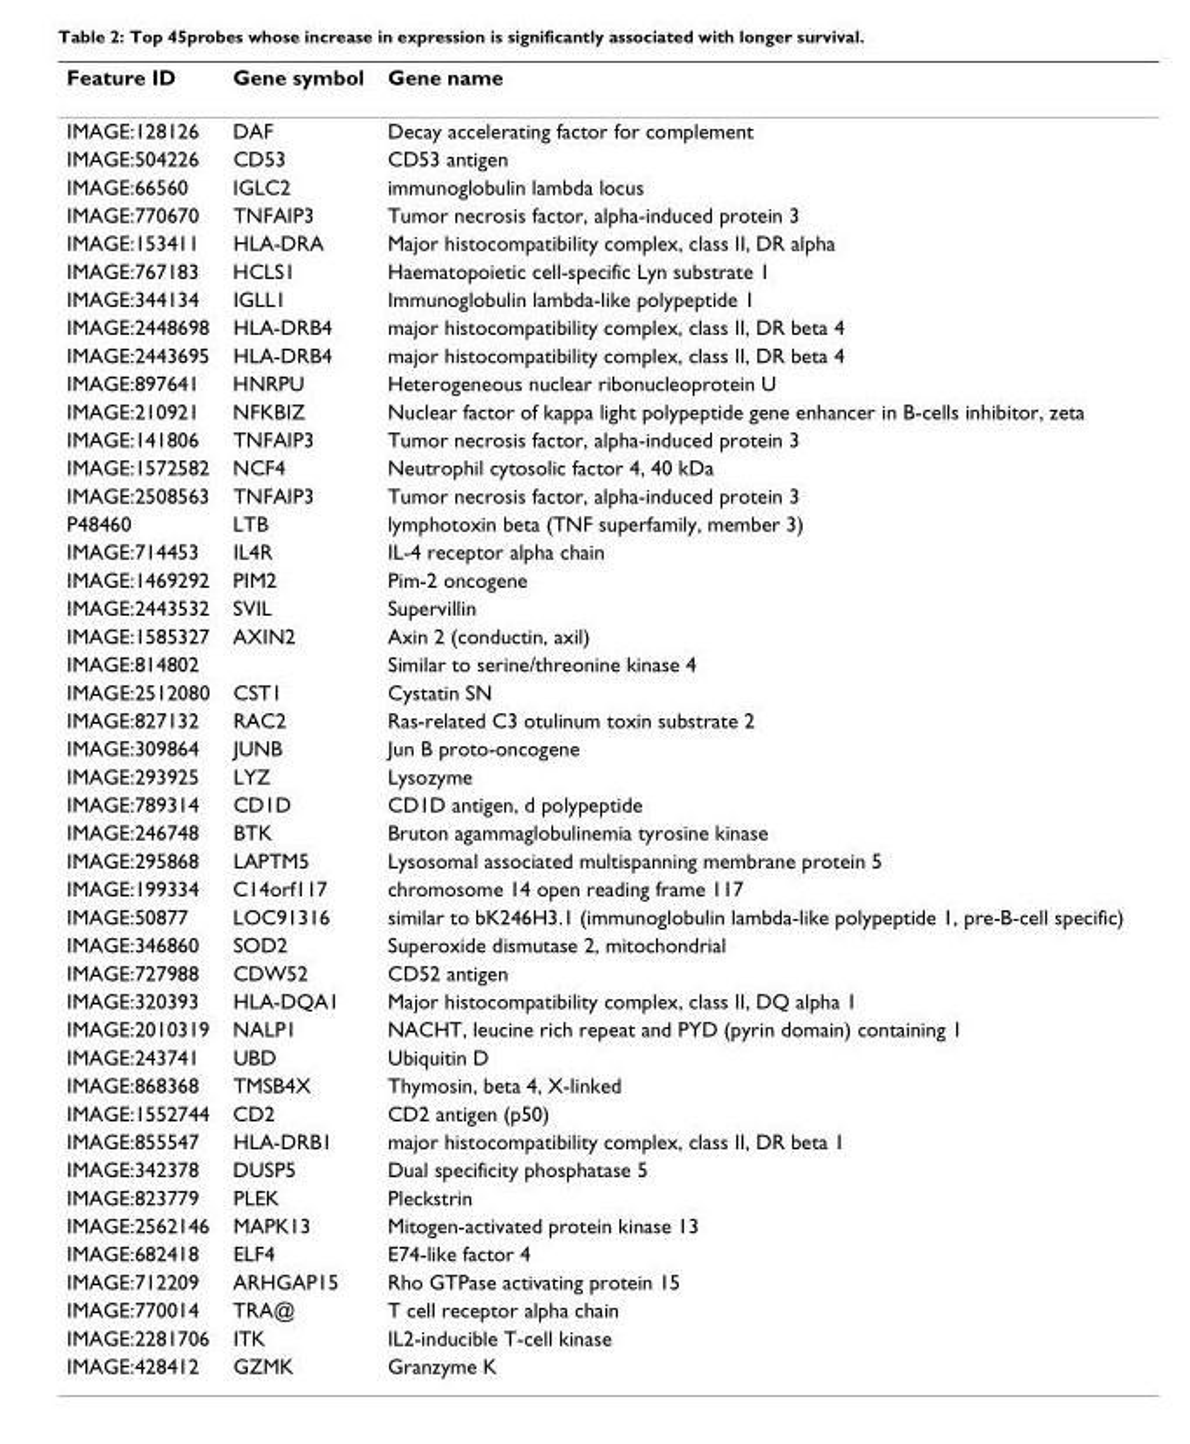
<table><thead><tr><td>Feature ID</td><td>Gene symbol</td><td>Gene name</td></tr></thead><tbody><tr><td>IMAGE:128126</td><td>DAF</td><td>Decay accelerating factor for complement</td></tr><tr><td>IMAGE:504226</td><td>CD53</td><td>CD53 antigen</td></tr><tr><td>IMAGE:66560</td><td>IGLC2</td><td>immunoglobulin lambda locus</td></tr><tr><td>IMAGE:770670</td><td>TNFAIP3</td><td>Tumor necrosis factor, alpha-induced protein 3</td></tr><tr><td>IMAGE:153411</td><td>HLA-DRA</td><td>Major histocompatibility complex, class II, DR alpha</td></tr><tr><td>IMAGE:767183</td><td>HCLS1</td><td>Haematopoietic cell-specific Lyn substrate 1</td></tr><tr><td>IMAGE:344134</td><td>IGLL1</td><td>Immunoglobulin lambda-like polypeptide 1</td></tr><tr><td>IMAGE:2448698</td><td>HLA-DRB4</td><td>major histocompatibility complex, class II, DR beta 4</td></tr><tr><td>IMAGE:2443695</td><td>HLA-DRB4</td><td>major histocompatibility complex, class II, DR beta 4</td></tr><tr><td>IMAGE:897641</td><td>HNRPU</td><td>Heterogeneous nuclear ribonucleoprotein U</td></tr><tr><td>IMAGE:210921</td><td>NFKBIZ</td><td>Nuclear factor of kappa light polypeptide gene enhancer in B-cells inhibitor, zeta</td></tr><tr><td>IMAGE:141806</td><td>TNFAIP3</td><td>Tumor necrosis factor, alpha-induced protein 3</td></tr><tr><td>IMAGE:1572582</td><td>NCF4</td><td>Neutrophil cytosolic factor 4, 40 kDa</td></tr><tr><td>IMAGE:2508563</td><td>TNFAIP3</td><td>Tumor necrosis factor, alpha-induced protein 3</td></tr><tr><td>P48460</td><td>LTB</td><td>lymphotoxin beta (TNF superfamily, member 3)</td></tr><tr><td>IMAGE:714453</td><td>IL4R</td><td>IL-4 receptor alpha chain</td></tr><tr><td>IMAGE:1469292</td><td>PIM2</td><td>Pim-2 oncogene</td></tr><tr><td>IMAGE:2443532</td><td>SVIL</td><td>Supervillin</td></tr><tr><td>IMAGE:1585327</td><td>AXIN2</td><td>Axin 2 (conductin, axil)</td></tr><tr><td>IMAGE:814802</td><td></td><td>Similar to serine/threonine kinase 4</td></tr><tr><td>IMAGE:2512080</td><td>CST1</td><td>Cystatin SN</td></tr><tr><td>IMAGE:827132</td><td>RAC2</td><td>Ras-related C3 otulinum toxin substrate 2</td></tr><tr><td>IMAGE:309864</td><td>JUNB</td><td>Jun B proto-oncogene</td></tr><tr><td>IMAGE:293925</td><td>LYZ</td><td>Lysozyme</td></tr><tr><td>IMAGE:789314</td><td>CD1D</td><td>CD1D antigen, d polypeptide</td></tr><tr><td>IMAGE:246748</td><td>BTK</td><td>Bruton agammaglobulinemia tyrosine kinase</td></tr><tr><td>IMAGE:295868</td><td>LAPTM5</td><td>Lysosomal associated multispanning membrane protein 5</td></tr><tr><td>IMAGE:199334</td><td>C14orf117</td><td>chromosome 14 open reading frame 117</td></tr><tr><td>IMAGE:50877</td><td>LOC91316</td><td>similar to bK246H3.1 (immunoglobulin lambda-like polypeptide 1, pre-B-cell specific)</td></tr><tr><td>IMAGE:346860</td><td>SOD2</td><td>Superoxide dismutase 2, mitochondrial</td></tr><tr><td>IMAGE:727988</td><td>CDW52</td><td>CD52 antigen</td></tr><tr><td>IMAGE:320393</td><td>HLA-DQA1</td><td>Major histocompatibility complex, class II, DQ alpha 1</td></tr><tr><td>IMAGE:2010319</td><td>NALP1</td><td>NACHT, leucine rich repeat and PYD (pyrin domain) containing 1</td></tr><tr><td>IMAGE:243741</td><td>UBD</td><td>Ubiquitin D</td></tr><tr><td>IMAGE:868368</td><td>TMSB4X</td><td>Thymosin, beta 4, X-linked</td></tr><tr><td>IMAGE:1552744</td><td>CD2</td><td>CD2 antigen (p50)</td></tr><tr><td>IMAGE:855547</td><td>HLA-DRB1</td><td>major histocompatibility complex, class II, DR beta 1</td></tr><tr><td>IMAGE:342378</td><td>DUSP5</td><td>Dual specificity phosphatase 5</td></tr><tr><td>IMAGE:823779</td><td>PLEK</td><td>Pleckstrin</td></tr><tr><td>IMAGE:2562146</td><td>MAPK13</td><td>Mitogen-activated protein kinase 13</td></tr><tr><td>IMAGE:682418</td><td>ELF4</td><td>E74-like factor 4</td></tr><tr><td>IMAGE:712209</td><td>ARHGAP15</td><td>Rho GTPase activating protein 15</td></tr><tr><td>IMAGE:770014</td><td>TRA@</td><td>T cell receptor alpha chain</td></tr><tr><td>IMAGE:2281706</td><td>ITK</td><td>IL2-inducible T-cell kinase</td></tr><tr><td>IMAGE:428412</td><td>GZMK</td><td>Granzyme K</td></tr></tbody></table>